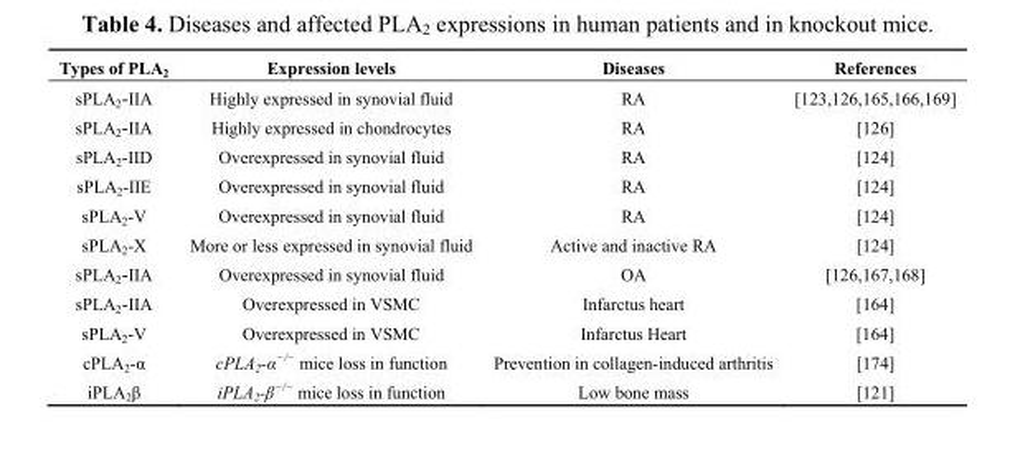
<table><thead><tr><td>Types of PLA<sub>2</sub></td><td>Expression levels</td><td>Diseases</td><td>References</td></tr></thead><tbody><tr><td>sPLA<sub>2</sub>-IIA</td><td>Highly expressed in synovial fluid</td><td>RA</td><td>[123,126,165,166,169]</td></tr><tr><td>sPLA<sub>2</sub>-IIA</td><td>Highly expressed in chondrocytes</td><td>RA</td><td>[126]</td></tr><tr><td>sPLA<sub>2</sub>-IID</td><td>Overexpressed in synovial fluid</td><td>RA</td><td>[124]</td></tr><tr><td>sPLA<sub>2</sub>-IIE</td><td>Overexpressed in synovial fluid</td><td>RA</td><td>[124]</td></tr><tr><td>sPLA<sub>2</sub>-V</td><td>Overexpressed in synovial fluid</td><td>RA</td><td>[124]</td></tr><tr><td>sPLA<sub>2</sub>-X</td><td>More or less expressed in synovial fluid</td><td>Active and inactive RA</td><td>[124]</td></tr><tr><td>sPLA<sub>2</sub>-IIA</td><td>Overexpressed in synovial fluid</td><td>OA</td><td>[126,167,168]</td></tr><tr><td>sPLA<sub>2</sub>-IIA</td><td>Overexpressed in VSMC</td><td>Infarctus heart</td><td>[164]</td></tr><tr><td>sPLA<sub>2</sub>-V</td><td>Overexpressed in VSMC</td><td>Infarctus Heart</td><td>[164]</td></tr><tr><td>cPLA<sub>2</sub>-α</td><td>cPLA<sub>2</sub>-α<sup>−/−</sup> mice loss in function</td><td>Prevention in collagen-induced arthritis</td><td>[174]</td></tr><tr><td>iPLA<sub>2</sub>β</td><td>iPLA<sub>2</sub>-β<sup>−/−</sup> mice loss in function</td><td>Low bone mass</td><td>[121]</td></tr></tbody></table>